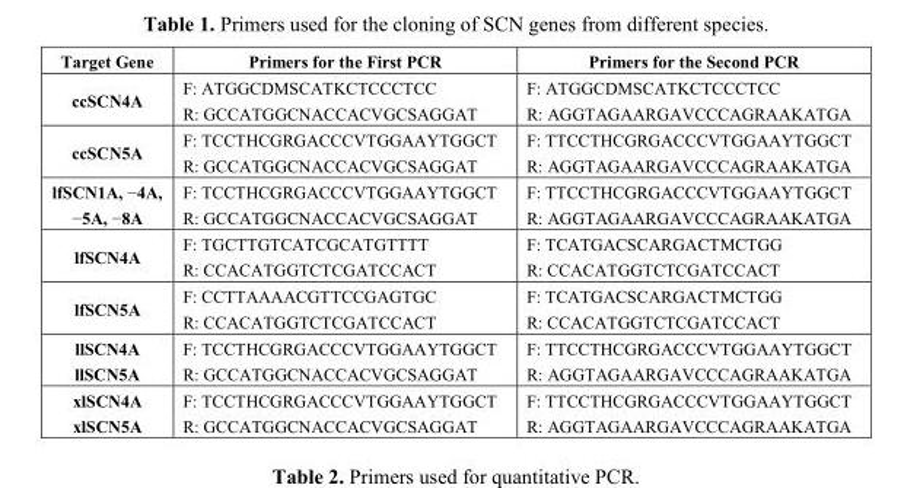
<table><thead><tr><td>Target Gene</td><td>Primers for the First PCR</td><td>Primers for the Second PCR</td></tr></thead><tbody><tr><td>ccSCN4A</td><td>F: ATGGCDMSCATKCTCCCTCC R: GCCATGGCNACCACVGCSAGGAT</td><td>F: ATGGCDMSCATKCTCCCTCC R: AGGTAGAARGAVCCCAGRAAKATGA</td></tr><tr><td>ccSCN5A</td><td>F: TCCTHCGRGACCCVTGGAAYTGGCT R: GCCATGGCNACCACVGCSAGGAT</td><td>F: TTCCTHCGRGACCCVTGGAAYTGGCT R: AGGTAGAARGAVCCCAGRAAKATGA</td></tr><tr><td>lfSCN1A, −4A, −5A, −8A</td><td>F: TCCTHCGRGACCCVTGGAAYTGGCT R: GCCATGGCNACCACVGCSAGGAT</td><td>F: TTCCTHCGRGACCCVTGGAAYTGGCT R: AGGTAGAARGAVCCCAGRAAKATGA</td></tr><tr><td>lfSCN4A</td><td>F: TGCTTGTCATCGCATGTTTT R: CCACATGGTCTCGATCCACT</td><td>F: TCATGACSCARGACTMCTGG R: CCACATGGTCTCGATCCACT</td></tr><tr><td>lfSCN5A</td><td>F: CCTTAAAACGTTCCGAGTGC R: CCACATGGTCTCGATCCACT</td><td>F: TCATGACSCARGACTMCTGG R: CCACATGGTCTCGATCCACT</td></tr><tr><td>llSCN4A llSCN5A</td><td>F: TCCTHCGRGACCCVTGGAAYTGGCT R: GCCATGGCNACCACVGCSAGGAT</td><td>F: TTCCTHCGRGACCCVTGGAAYTGGCT R: AGGTAGAARGAVCCCAGRAAKATGA</td></tr><tr><td>xlSCN4A xlSCN5A</td><td>F: TCCTHCGRGACCCVTGGAAYTGGCT R: GCCATGGCNACCACVGCSAGGAT</td><td>F: TTCCTHCGRGACCCVTGGAAYTGGCT R: AGGTAGAARGAVCCCAGRAAKATGA</td></tr></tbody></table>